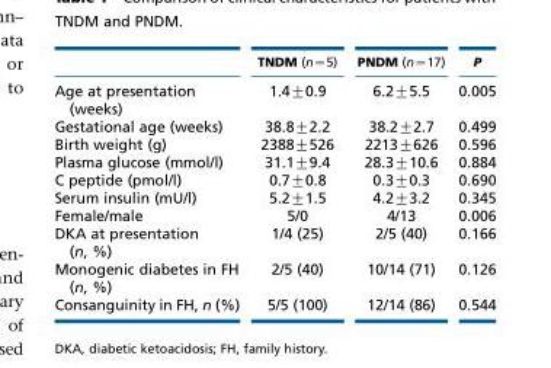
<table><thead><tr><td></td><td>TNDM (n=5)</td><td>PNDM (n=17)</td><td>P</td></tr></thead><tbody><tr><td>Age at presentation (weeks)</td><td>1.4±0.9</td><td>6.2±5.5</td><td>0.005</td></tr><tr><td>Gestational age (weeks)</td><td>38.8±2.2</td><td>38.2±2.7</td><td>0.499</td></tr><tr><td>Birth weight (g)</td><td>2388±526</td><td>2213±626</td><td>0.596</td></tr><tr><td>Plasma glucose (mmol/l)</td><td>31.1±9.4</td><td>28.3±10.6</td><td>0.884</td></tr><tr><td>C peptide (pmol/l)</td><td>0.7±0.8</td><td>0.3±0.3</td><td>0.690</td></tr><tr><td>Serum insulin (mU/l)</td><td>5.2±1.5</td><td>4.2±3.2</td><td>0.345</td></tr><tr><td>Female/male</td><td>5/0</td><td>4/13</td><td>0.006</td></tr><tr><td>DKA at presentation (n, %)</td><td>1/4 (25)</td><td>2/5 (40)</td><td>0.166</td></tr><tr><td>Monogenic diabetes in FH (n, %)</td><td>2/5 (40)</td><td>10/14 (71)</td><td>0.126</td></tr><tr><td>Consanguinity in FH, n (%)</td><td>5/5 (100)</td><td>12/14 (86)</td><td>0.544</td></tr></tbody></table>